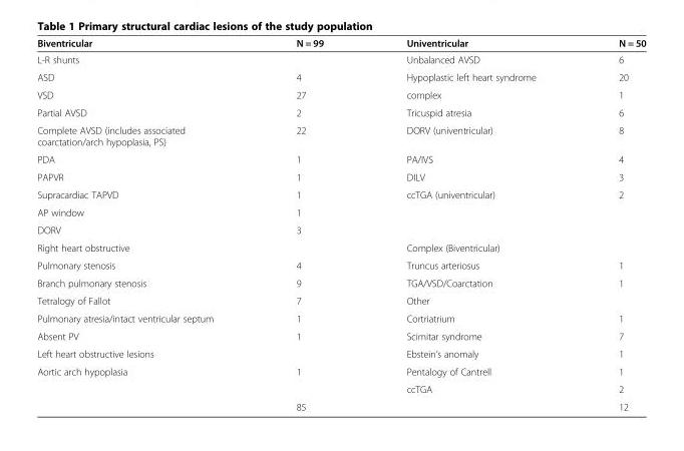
<table><thead><tr><td>Biventricular</td><td>N = 99</td><td>Univentricular</td><td>N = 50</td></tr></thead><tbody><tr><td>L-R shunts</td><td></td><td>Unbalanced AVSD</td><td>6</td></tr><tr><td>ASD</td><td>4</td><td>Hypoplastic left heart syndrome</td><td>20</td></tr><tr><td>VSD</td><td>27</td><td>complex</td><td>1</td></tr><tr><td>Partial AVSD</td><td>2</td><td>Tricuspid atresia</td><td>6</td></tr><tr><td>Complete AVSD (includes associated coarctation/arch hypoplasia, PS)</td><td>22</td><td>DORV (univentricular)</td><td>8</td></tr><tr><td>PDA</td><td>1</td><td>PA/IVS</td><td>4</td></tr><tr><td>PAPVR</td><td>1</td><td>DILV</td><td>3</td></tr><tr><td>Supracardiac TAPVD</td><td>1</td><td>ccTGA (univentricular)</td><td>2</td></tr><tr><td>AP window</td><td>1</td><td></td><td></td></tr><tr><td>DORV</td><td>3</td><td></td><td></td></tr><tr><td>Right heart obstructive</td><td></td><td>Complex (Biventricular)</td><td></td></tr><tr><td>Pulmonary stenosis</td><td>4</td><td>Truncus arteriosus</td><td>1</td></tr><tr><td>Branch pulmonary stenosis</td><td>9</td><td>TGA/VSD/Coarctation</td><td>1</td></tr><tr><td>Tetralogy of Fallot</td><td>7</td><td>Other</td><td></td></tr><tr><td>Pulmonary atresia/intact ventricular septum</td><td>1</td><td>Cortriatrium</td><td>1</td></tr><tr><td>Absent PV</td><td>1</td><td>Scimitar syndrome</td><td>7</td></tr><tr><td>Left heart obstructive lesions</td><td></td><td>Ebstein’s anomaly</td><td>1</td></tr><tr><td rowspan="3">Aortic arch hypoplasia</td><td>1</td><td>Pentalogy of Cantrell</td><td>1</td></tr><tr><td></td><td>ccTGA</td><td>2</td></tr><tr><td>85</td><td></td><td>12</td></tr></tbody></table>